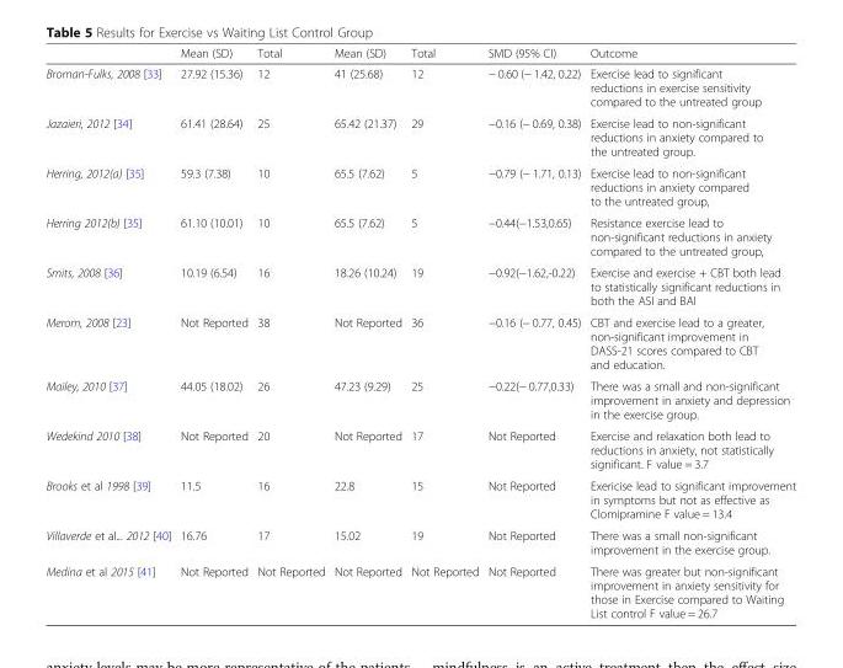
<table><thead><tr><td></td><td>Mean (SD)</td><td>Total</td><td>Mean (SD)</td><td>Total</td><td>SMD (95% CI)</td><td>Outcome</td></tr></thead><tbody><tr><td>Broman-Fulks, 2008 [33]</td><td>27.92 (15.36)</td><td>12</td><td>41 (25.68)</td><td>12</td><td>− 0.60 (− 1.42, 0.22)</td><td>Exercise lead to significant reductions in exercise sensitivity compared to the untreated group</td></tr><tr><td>Jazaieri, 2012 [34]</td><td>61.41 (28.64)</td><td>25</td><td>65.42 (21.37)</td><td>29</td><td>−0.16 (− 0.69, 0.38)</td><td>Exercise lead to non-significant reductions in anxiety compared to the untreated group.</td></tr><tr><td>Herring, 2012(a) [35]</td><td>59.3 (7.38)</td><td>10</td><td>65.5 (7.62)</td><td>5</td><td>−0.79 (− 1.71, 0.13)</td><td>Exercise lead to non-significant reductions in anxiety compared to the untreated group,</td></tr><tr><td>Herring 2012(b) [35]</td><td>61.10 (10.01)</td><td>10</td><td>65.5 (7.62)</td><td>5</td><td>−0.44(−1.53,0.65)</td><td>Resistance exercise lead to non-significant reductions in anxiety compared to the untreated group,</td></tr><tr><td>Smits, 2008 [36]</td><td>10.19 (6.54)</td><td>16</td><td>18.26 (10.24)</td><td>19</td><td>−0.92(−1.62,-0.22)</td><td>Exercise and exercise + CBT both lead to statistically significant reductions in both the ASI and BAI</td></tr><tr><td>Merom, 2008 [23]</td><td>Not Reported</td><td>38</td><td>Not Reported</td><td>36</td><td>−0.16 (− 0.77, 0.45)</td><td>CBT and exercise lead to a greater, non-significant improvement in DASS-21 scores compared to CBT and education.</td></tr><tr><td>Mailey, 2010 [37]</td><td>44.05 (18.02)</td><td>26</td><td>47.23 (9.29)</td><td>25</td><td>−0.22(− 0.77,0.33)</td><td>There was a small and non-significant improvement in anxiety and depression in the exercise group.</td></tr><tr><td>Wedekind 2010 [38]</td><td>Not Reported</td><td>20</td><td>Not Reported</td><td>17</td><td>Not Reported</td><td>Exercise and relaxation both lead to reductions in anxiety, not statistically significant. F value = 3.7</td></tr><tr><td>Brooks et al 1998 [39]</td><td>11.5</td><td>16</td><td>22.8</td><td>15</td><td>Not Reported</td><td>Exericise lead to significant improvement in symptoms but not as effective as Clomipramine F value = 13.4</td></tr><tr><td>Villaverde et al... 2012 [40]</td><td>16.76</td><td>17</td><td>15.02</td><td>19</td><td>Not Reported</td><td>There was a small non-significant improvement in the exercise group.</td></tr><tr><td>Medina et al 2015 [41]</td><td>Not Reported</td><td>Not Reported</td><td>Not Reported</td><td>Not Reported</td><td>Not Reported</td><td>There was greater but non-significant improvement in anxiety sensitivity for those in Exercise compared to Waiting List control F value = 26.7</td></tr></tbody></table>